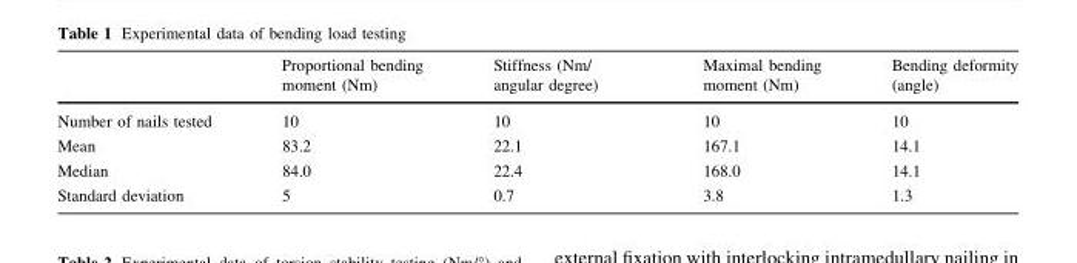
<table><thead><tr><td></td><td>Proportional bending moment (Nm)</td><td>Stiffness (Nm/ angular degree)</td><td>Maximal bending moment (Nm)</td><td>Bending deformity (angle)</td></tr></thead><tbody><tr><td>Number of nails tested</td><td>10</td><td>10</td><td>10</td><td>10</td></tr><tr><td>Mean</td><td>83.2</td><td>22.1</td><td>167.1</td><td>14.1</td></tr><tr><td>Median</td><td>84.0</td><td>22.4</td><td>168.0</td><td>14.1</td></tr><tr><td>Standard deviation</td><td>5</td><td>0.7</td><td>3.8</td><td>1.3</td></tr></tbody></table>